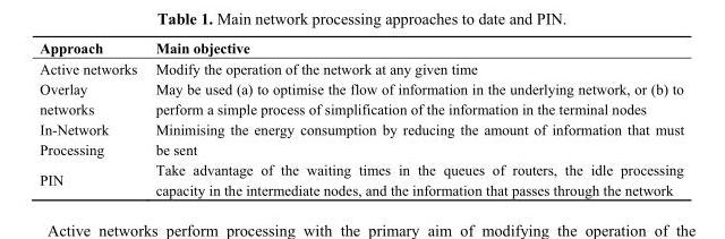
<table><thead><tr><td>Approach</td><td>Main objective</td></tr></thead><tbody><tr><td>Active networks</td><td>Modify the operation of the network at any given time</td></tr><tr><td>Overlay networks</td><td>May be used (a) to optimise the flow of information in the underlying network, or (b) to perform a simple process of simplification of the information in the terminal nodes</td></tr><tr><td>In-Network Processing</td><td>Minimising the energy consumption by reducing the amount of information that must be sent</td></tr><tr><td>PIN</td><td>Take advantage of the waiting times in the queues of routers, the idle processing capacity in the intermediate nodes, and the information that passes through the network</td></tr></tbody></table>